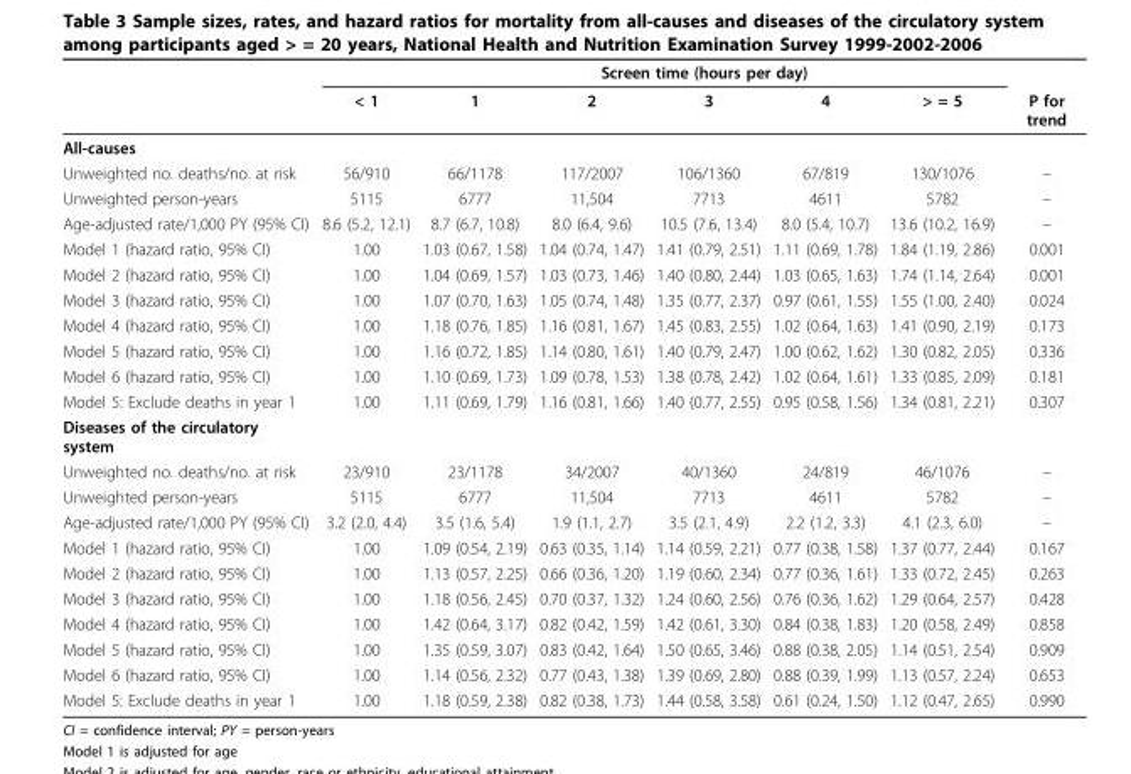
<table><thead><tr><td rowspan="2"></td><td colspan="7">Screen time (hours per day)</td></tr><tr><td>&lt; 1</td><td>1</td><td>2</td><td>3</td><td>4</td><td>&gt; = 5</td><td>P for trend</td></tr></thead><tbody><tr><td colspan="8">All-causes</td></tr><tr><td>Unweighted no. deaths/no. at risk</td><td>56/910</td><td>66/1178</td><td>117/2007</td><td>106/1360</td><td>67/819</td><td>130/1076</td><td>–</td></tr><tr><td>Unweighted person-years</td><td>5115</td><td>6777</td><td>11,504</td><td>7713</td><td>4611</td><td>5782</td><td>–</td></tr><tr><td>Age-adjusted rate/1,000 PY (95% CI)</td><td>8.6 (5.2, 12.1)</td><td>8.7 (6.7, 10.8)</td><td>8.0 (6.4, 9.6)</td><td>10.5 (7.6, 13.4)</td><td>8.0 (5.4, 10.7)</td><td>13.6 (10.2, 16.9)</td><td>–</td></tr><tr><td>Model 1 (hazard ratio, 95% CI)</td><td>1.00</td><td>1.03 (0.67, 1.58)</td><td>1.04 (0.74, 1.47)</td><td>1.41 (0.79, 2.51)</td><td>1.11 (0.69, 1.78)</td><td>1.84 (1.19, 2.86)</td><td>0.001</td></tr><tr><td>Model 2 (hazard ratio, 95% CI)</td><td>1.00</td><td>1.04 (0.69, 1.57)</td><td>1.03 (0.73, 1.46)</td><td>1.40 (0.80, 2.44)</td><td>1.03 (0.65, 1.63)</td><td>1.74 (1.14, 2.64)</td><td>0.001</td></tr><tr><td>Model 3 (hazard ratio, 95% CI)</td><td>1.00</td><td>1.07 (0.70, 1.63)</td><td>1.05 (0.74, 1.48)</td><td>1.35 (0.77, 2.37)</td><td>0.97 (0.61, 1.55)</td><td>1.55 (1.00, 2.40)</td><td>0.024</td></tr><tr><td>Model 4 (hazard ratio, 95% CI)</td><td>1.00</td><td>1.18 (0.76, 1.85)</td><td>1.16 (0.81, 1.67)</td><td>1.45 (0.83, 2.55)</td><td>1.02 (0.64, 1.63)</td><td>1.41 (0.90, 2.19)</td><td>0.173</td></tr><tr><td>Model 5 (hazard ratio, 95% CI)</td><td>1.00</td><td>1.16 (0.72, 1.85)</td><td>1.14 (0.80, 1.61)</td><td>1.40 (0.79, 2.47)</td><td>1.00 (0.62, 1.62)</td><td>1.30 (0.82, 2.05)</td><td>0.336</td></tr><tr><td>Model 6 (hazard ratio, 95% CI)</td><td>1.00</td><td>1.10 (0.69, 1.73)</td><td>1.09 (0.78, 1.53)</td><td>1.38 (0.78, 2.42)</td><td>1.02 (0.64, 1.61)</td><td>1.33 (0.85, 2.09)</td><td>0.181</td></tr><tr><td>Model 5: Exclude deaths in year 1</td><td>1.00</td><td>1.11 (0.69, 1.79)</td><td>1.16 (0.81, 1.66)</td><td>1.40 (0.77, 2.55)</td><td>0.95 (0.58, 1.56)</td><td>1.34 (0.81, 2.21)</td><td>0.307</td></tr><tr><td colspan="8">Diseases of the circulatory system</td></tr><tr><td>Unweighted no. deaths/no. at risk</td><td>23/910</td><td>23/1178</td><td>34/2007</td><td>40/1360</td><td>24/819</td><td>46/1076</td><td>–</td></tr><tr><td>Unweighted person-years</td><td>5115</td><td>6777</td><td>11,504</td><td>7713</td><td>4611</td><td>5782</td><td>–</td></tr><tr><td>Age-adjusted rate/1,000 PY (95% CI)</td><td>3.2 (2.0, 4.4)</td><td>3.5 (1.6, 5.4)</td><td>1.9 (1.1, 2.7)</td><td>3.5 (2.1, 4.9)</td><td>2.2 (1.2, 3.3)</td><td>4.1 (2.3, 6.0)</td><td>–</td></tr><tr><td>Model 1 (hazard ratio, 95% CI)</td><td>1.00</td><td>1.09 (0.54, 2.19)</td><td>0.63 (0.35, 1.14)</td><td>1.14 (0.59, 2.21)</td><td>0.77 (0.38, 1.58)</td><td>1.37 (0.77, 2.44)</td><td>0.167</td></tr><tr><td>Model 2 (hazard ratio, 95% CI)</td><td>1.00</td><td>1.13 (0.57, 2.25)</td><td>0.66 (0.36, 1.20)</td><td>1.19 (0.60, 2.34)</td><td>0.77 (0.36, 1.61)</td><td>1.33 (0.72, 2.45)</td><td>0.263</td></tr><tr><td>Model 3 (hazard ratio, 95% CI)</td><td>1.00</td><td>1.18 (0.56, 2.45)</td><td>0.70 (0.37, 1.32)</td><td>1.24 (0.60, 2.56)</td><td>0.76 (0.36, 1.62)</td><td>1.29 (0.64, 2.57)</td><td>0.428</td></tr><tr><td>Model 4 (hazard ratio, 95% CI)</td><td>1.00</td><td>1.42 (0.64, 3.17)</td><td>0.82 (0.42, 1.59)</td><td>1.42 (0.61, 3.30)</td><td>0.84 (0.38, 1.83)</td><td>1.20 (0.58, 2.49)</td><td>0.858</td></tr><tr><td>Model 5 (hazard ratio, 95% CI)</td><td>1.00</td><td>1.35 (0.59, 3.07)</td><td>0.83 (0.42, 1.64)</td><td>1.50 (0.65, 3.46)</td><td>0.88 (0.38, 2.05)</td><td>1.14 (0.51, 2.54)</td><td>0.909</td></tr><tr><td>Model 6 (hazard ratio, 95% CI)</td><td>1.00</td><td>1.14 (0.56, 2.32)</td><td>0.77 (0.43, 1.38)</td><td>1.39 (0.69, 2.80)</td><td>0.88 (0.39, 1.99)</td><td>1.13 (0.57, 2.24)</td><td>0.653</td></tr><tr><td>Model 5: Exclude deaths in year 1</td><td>1.00</td><td>1.18 (0.59, 2.38)</td><td>0.82 (0.38, 1.73)</td><td>1.44 (0.58, 3.58)</td><td>0.61 (0.24, 1.50)</td><td>1.12 (0.47, 2.65)</td><td>0.990</td></tr></tbody></table>